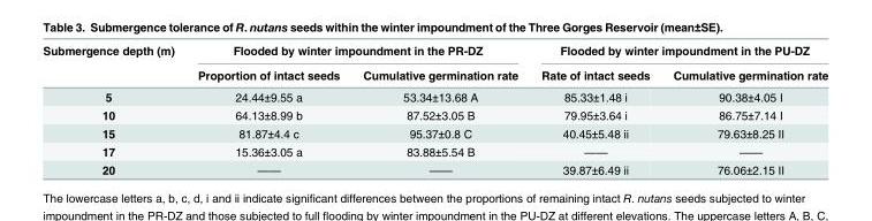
<table><thead><tr><td rowspan="2">Submergence depth (m)</td><td colspan="2">Flooded by winter impoundment in the PR-DZ</td><td colspan="2">Flooded by winter impoundment in the PU-DZ</td></tr><tr><td>Proportion of intact seeds</td><td>Cumulative germination rate</td><td>Rate of intact seeds</td><td>Cumulative germination rate</td></tr></thead><tbody><tr><td>5</td><td>24.44±9.55 a</td><td>53.34±13.68 A</td><td>85.33±1.48 i</td><td>90.38±4.05 I</td></tr><tr><td>10</td><td>64.13±8.99 b</td><td>87.52±3.05 B</td><td>79.95±3.64 i</td><td>86.75±7.14 I</td></tr><tr><td>15</td><td>81.87±4.4 c</td><td>95.37±0.8 C</td><td>40.45±5.48 ii</td><td>79.63±8.25 II</td></tr><tr><td>17</td><td>15.36±3.05 a</td><td>83.88±5.54 B</td><td>——</td><td>——</td></tr><tr><td>20</td><td>——</td><td>——</td><td>39.87±6.49 ii</td><td>76.06±2.15 II</td></tr></tbody></table>